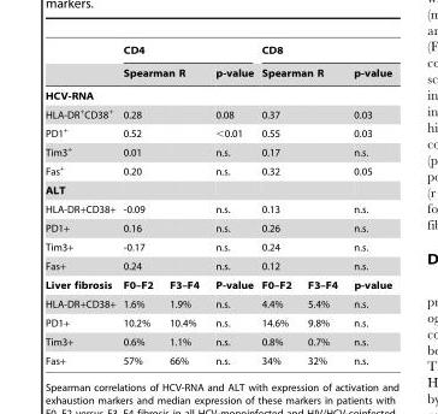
<table><thead><tr><td rowspan="3">HCV-RNA</td><td colspan="3">CD4</td><td colspan="3">CD8</td></tr><tr><td colspan="2">Spearman R</td><td rowspan="2">p-value</td><td colspan="2">Spearman R</td><td rowspan="2">p-value</td></tr><tr><td></td><td></td><td></td><td></td></tr></thead><tbody><tr><td>HLA-DR+CD38+</td><td>0.28</td><td></td><td>0.08</td><td>0.37</td><td></td><td>0.03</td></tr><tr><td>PD1<sup>+</sup></td><td>0.52</td><td></td><td>&lt;0.01</td><td>0.55</td><td></td><td>0.03</td></tr><tr><td>Tim3<sup>+</sup></td><td>0.01</td><td></td><td>n.s.</td><td>0.17</td><td></td><td>n.s.</td></tr><tr><td>Fas<sup>+</sup></td><td>0.20</td><td></td><td>n.s.</td><td>0.32</td><td></td><td>0.05</td></tr><tr><td colspan="7">ALT</td></tr><tr><td>HLA-DR+CD38+</td><td>-0.09</td><td></td><td>n.s.</td><td>0.13</td><td></td><td>n.s.</td></tr><tr><td>PD1+</td><td>0.16</td><td></td><td>n.s.</td><td>0.26</td><td></td><td>n.s.</td></tr><tr><td>Tim3+</td><td>-0.17</td><td></td><td>n.s.</td><td>0.24</td><td></td><td>n.s.</td></tr><tr><td>Fas+</td><td>0.24</td><td></td><td>n.s.</td><td>0.12</td><td></td><td>n.s.</td></tr><tr><td>Liver fibrosis</td><td>F0–F2</td><td>F3–F4</td><td>P-value</td><td>F0–F2</td><td>F3–F4</td><td>p-value</td></tr><tr><td>HLA-DR+CD38+</td><td>1.6%</td><td>1.9%</td><td>n.s.</td><td>4.4%</td><td>5.4%</td><td>n.s.</td></tr><tr><td>PD1+</td><td>10.2%</td><td>10.4%</td><td>n.s.</td><td>14.6%</td><td>9.8%</td><td>n.s.</td></tr><tr><td>Tim3+</td><td>0.6%</td><td>1.1%</td><td>n.s.</td><td>0.8%</td><td>0.7%</td><td>n.s.</td></tr><tr><td>Fas+</td><td>57%</td><td>66%</td><td>n.s.</td><td>34%</td><td>32%</td><td>n.s.</td></tr></tbody></table>